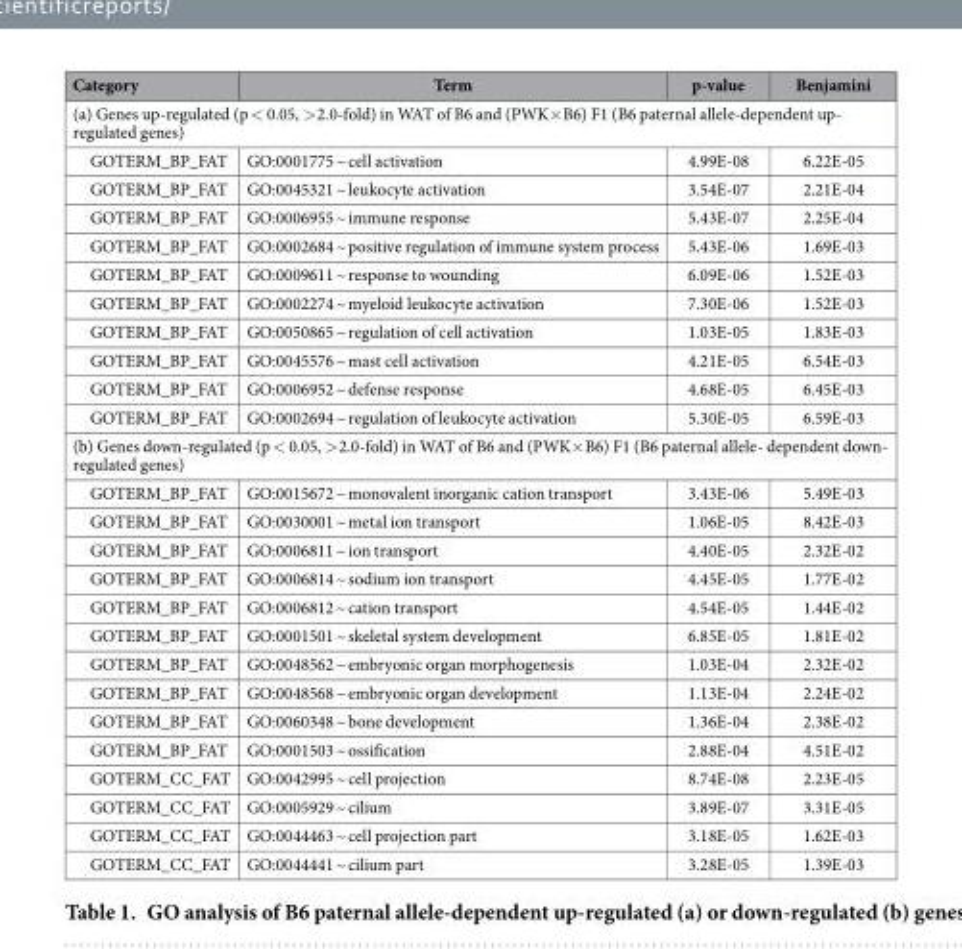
<table><thead><tr><td>Category</td><td>Term</td><td>p-value</td><td>Benjamini</td></tr></thead><tbody><tr><td colspan="4">(a) Genes up-regulated (p &lt; 0.05, &gt; 2.0-fold) in WAT of B6 and (PWK× B6) F1 (B6 paternal allele-dependent up- regulated genes)</td></tr><tr><td>GOTERM_BP_FAT</td><td>GO:0001775 ~ cell activation</td><td>4.99E-08</td><td>6.22E-05</td></tr><tr><td>GOTERM_BP_FAT</td><td>GO:0045321 ~ leukocyte activation</td><td>3.54E-07</td><td>2.21E-04</td></tr><tr><td>GOTERM_BP_FAT</td><td>GO:0006955 ~ immune response</td><td>5.43E-07</td><td>2.25E-04</td></tr><tr><td>GOTERM_BP_FAT</td><td>GO:0002684 ~ positive regulation of immune system process</td><td>5.43E-06</td><td>1.69E-03</td></tr><tr><td>GOTERM_BP_FAT</td><td>GO:0009611 ~ response to wounding</td><td>6.09E-06</td><td>1.52E-03</td></tr><tr><td>GOTERM_BP_FAT</td><td>GO:0002274 ~ myeloid leukocyte activation</td><td>7.30E-06</td><td>1.52E-03</td></tr><tr><td>GOTERM_BP_FAT</td><td>GO:0050865 ~ regulation of cell activation</td><td>1.03E-05</td><td>1.83E-03</td></tr><tr><td>GOTERM_BP_FAT</td><td>GO:0045576 ~ mast cell activation</td><td>4.21E-05</td><td>6.54E-03</td></tr><tr><td>GOTERM_BP_FAT</td><td>GO:0006952 ~ defense response</td><td>4.68E-05</td><td>6.45E-03</td></tr><tr><td>GOTERM_BP_FAT</td><td>GO:0002694 ~ regulation of leukocyte activation</td><td>5.30E-05</td><td>6.59E-03</td></tr><tr><td colspan="4">(b) Genes down-regulated (p &lt; 0.05, &gt; 2.0-fold) in WAT of B6 and (PWK× B6) F1 (B6 paternal allele- dependent down- regulated genes)</td></tr><tr><td>GOTERM_BP_FAT</td><td>GO:0015672 ~ monovalent inorganic cation transport</td><td>3.43E-06</td><td>5.49E-03</td></tr><tr><td>GOTERM_BP_FAT</td><td>GO:0030001 ~ metal ion transport</td><td>1.06E-05</td><td>8.42E-03</td></tr><tr><td>GOTERM_BP_FAT</td><td>GO:0006811 ~ ion transport</td><td>4.40E-05</td><td>2.32E-02</td></tr><tr><td>GOTERM_BP_FAT</td><td>GO:0006814 ~ sodium ion transport</td><td>4.45E-05</td><td>1.77E-02</td></tr><tr><td>GOTERM_BP_FAT</td><td>GO:0006812 ~ cation transport</td><td>4.54E-05</td><td>1.44E-02</td></tr><tr><td>GOTERM_BP_FAT</td><td>GO:0001501 ~ skeletal system development</td><td>6.85E-05</td><td>1.81E-02</td></tr><tr><td>GOTERM_BP_FAT</td><td>GO:0048562 ~ embryonic organ morphogenesis</td><td>1.03E-04</td><td>2.32E-02</td></tr><tr><td>GOTERM_BP_FAT</td><td>GO:0048568 ~ embryonic organ development</td><td>1.13E-04</td><td>2.24E-02</td></tr><tr><td>GOTERM_BP_FAT</td><td>GO:0060348 ~ bone development</td><td>1.36E-04</td><td>2.38E-02</td></tr><tr><td>GOTERM_BP_FAT</td><td>GO:0001503 ~ ossification</td><td>2.88E-04</td><td>4.51E-02</td></tr><tr><td>GOTERM_CC_FAT</td><td>GO:0042995 ~ cell projection</td><td>8.74E-08</td><td>2.23E-05</td></tr><tr><td>GOTERM_CC_FAT</td><td>GO:0005929 ~ cilium</td><td>3.89E-07</td><td>3.31E-05</td></tr><tr><td>GOTERM_CC_FAT</td><td>GO:0044463 ~ cell projection part</td><td>3.18E-05</td><td>1.62E-03</td></tr><tr><td>GOTERM_CC_FAT</td><td>GO:0044441 ~ cilium part</td><td>3.28E-05</td><td>1.39E-03</td></tr></tbody></table>